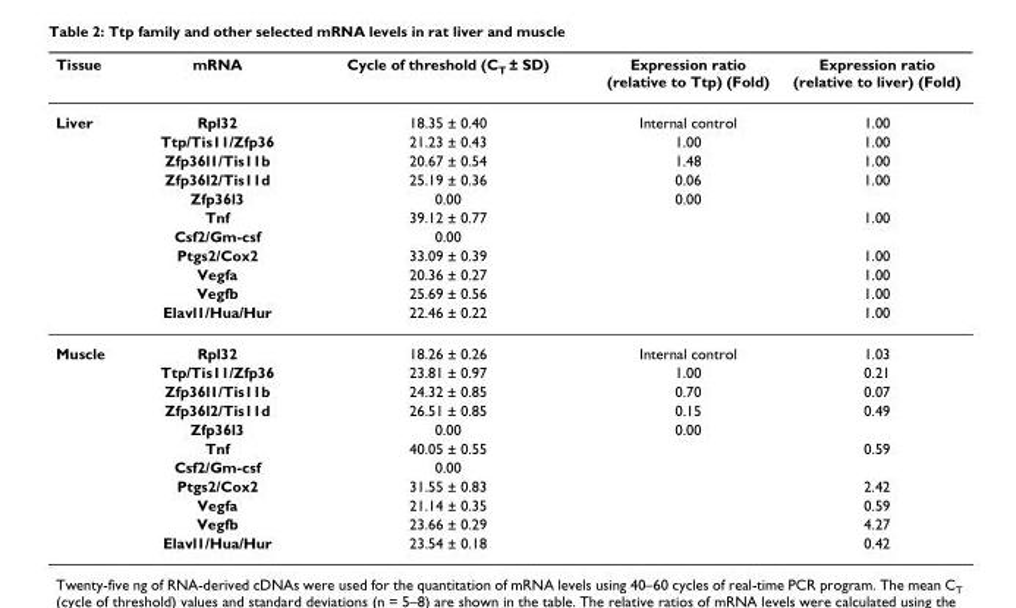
<table><thead><tr><td>Tissue</td><td>mRNA</td><td>Cycle of threshold (C<sub>T</sub> ± SD)</td><td>Expression ratio (relative to Ttp) (Fold)</td><td>Expression ratio (relative to liver) (Fold)</td></tr></thead><tbody><tr><td rowspan="11">Liver</td><td>Rpl32</td><td>18.35 ± 0.40</td><td>Internal control</td><td>1.00</td></tr><tr><td>Ttp/Tis11/Zfp36</td><td>21.23 ± 0.43</td><td>1.00</td><td>1.00</td></tr><tr><td>Zfp36l1/Tis11b</td><td>20.67 ± 0.54</td><td>1.48</td><td>1.00</td></tr><tr><td>Zfp36l2/Tis11d</td><td>25.19 ± 0.36</td><td>0.06</td><td>1.00</td></tr><tr><td>Zfp36l3</td><td>0.00</td><td>0.00</td><td></td></tr><tr><td>Tnf</td><td>39.12 ± 0.77</td><td></td><td>1.00</td></tr><tr><td>Csf2/Gm-csf</td><td>0.00</td><td></td><td></td></tr><tr><td>Ptgs2/Cox2</td><td>33.09 ± 0.39</td><td></td><td>1.00</td></tr><tr><td>Vegfa</td><td>20.36 ± 0.27</td><td></td><td>1.00</td></tr><tr><td>Vegfb</td><td>25.69 ± 0.56</td><td></td><td>1.00</td></tr><tr><td>Elavl1/Hua/Hur</td><td>22.46 ± 0.22</td><td></td><td>1.00</td></tr><tr><td rowspan="11">Muscle</td><td>Rpl32</td><td>18.26 ± 0.26</td><td>Internal control</td><td>1.03</td></tr><tr><td>Ttp/Tis11/Zfp36</td><td>23.81 ± 0.97</td><td>1.00</td><td>0.21</td></tr><tr><td>Zfp36l1/Tis11b</td><td>24.32 ± 0.85</td><td>0.70</td><td>0.07</td></tr><tr><td>Zfp36l2/Tis11d</td><td>26.51 ± 0.85</td><td>0.15</td><td>0.49</td></tr><tr><td>Zfp36l3</td><td>0.00</td><td>0.00</td><td></td></tr><tr><td>Tnf</td><td>40.05 ± 0.55</td><td></td><td>0.59</td></tr><tr><td>Csf2/Gm-csf</td><td>0.00</td><td></td><td></td></tr><tr><td>Ptgs2/Cox2</td><td>31.55 ± 0.83</td><td></td><td>2.42</td></tr><tr><td>Vegfa</td><td>21.14 ± 0.35</td><td></td><td>0.59</td></tr><tr><td>Vegfb</td><td>23.66 ± 0.29</td><td></td><td>4.27</td></tr><tr><td>Elavl1/Hua/Hur</td><td>23.54 ± 0.18</td><td></td><td>0.42</td></tr></tbody></table>